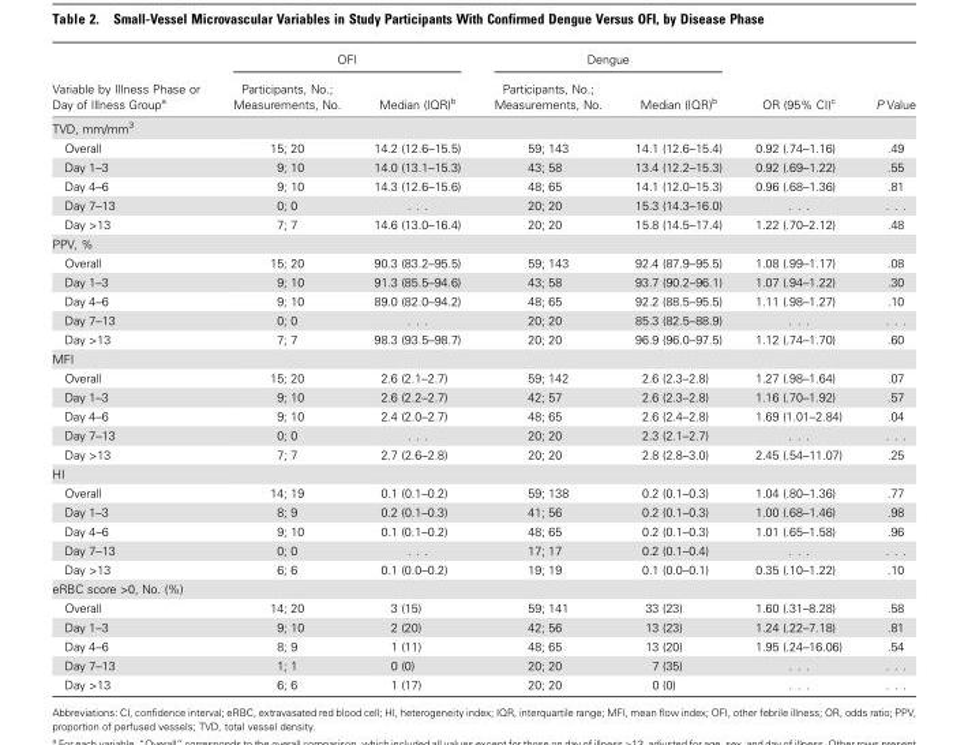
<table><thead><tr><td rowspan="2">Variable by Illness Phase or Day of Illness Group<sup>a</sup></td><td colspan="2">OFI</td><td colspan="2">Dengue</td><td rowspan="2">OR (95% CI)<sup>c</sup></td><td rowspan="2">P Value</td></tr><tr><td>Participants, No.; Measurements, No.</td><td>Median (IQR)<sup>b</sup></td><td>Participants, No.; Measurements, No.</td><td>Median (IQR)<sup>b</sup></td></tr></thead><tbody><tr><td colspan="7">TVD, mm/mm<sup>3</sup></td></tr><tr><td>Overall</td><td>15; 20</td><td>14.2 (12.6–15.5)</td><td>59; 143</td><td>14.1 (12.6–15.4)</td><td>0.92 (.74–1.16)</td><td>.49</td></tr><tr><td>Day 1–3</td><td>9; 10</td><td>14.0 (13.1–15.3)</td><td>43; 58</td><td>13.4 (12.2–15.3)</td><td>0.92 (.69–1.22)</td><td>.55</td></tr><tr><td>Day 4–6</td><td>9; 10</td><td>14.3 (12.6–15.6)</td><td>48; 65</td><td>14.1 (12.0–15.3)</td><td>0.96 (.68–1.36)</td><td>.81</td></tr><tr><td>Day 7–13</td><td>0; 0</td><td>. . .</td><td>20; 20</td><td>15.3 (14.3–16.0)</td><td>. . .</td><td>. . .</td></tr><tr><td>Day &gt;13</td><td>7; 7</td><td>14.6 (13.0–16.4)</td><td>20; 20</td><td>15.8 (14.5–17.4)</td><td>1.22 (.70–2.12)</td><td>.48</td></tr><tr><td colspan="7">PPV, %</td></tr><tr><td>Overall</td><td>15; 20</td><td>90.3 (83.2–95.5)</td><td>59; 143</td><td>92.4 (87.9–95.5)</td><td>1.08 (.99–1.17)</td><td>.08</td></tr><tr><td>Day 1–3</td><td>9; 10</td><td>91.3 (85.5–94.6)</td><td>43; 58</td><td>93.7 (90.2–96.1)</td><td>1.07 (.94–1.22)</td><td>.30</td></tr><tr><td>Day 4–6</td><td>9; 10</td><td>89.0 (82.0–94.2)</td><td>48; 65</td><td>92.2 (88.5–95.5)</td><td>1.11 (.98–1.27)</td><td>.10</td></tr><tr><td>Day 7–13</td><td>0; 0</td><td>. . .</td><td>20; 20</td><td>85.3 (82.5–88.9)</td><td>. . .</td><td>. . .</td></tr><tr><td>Day &gt;13</td><td>7; 7</td><td>98.3 (93.5–98.7)</td><td>20; 20</td><td>96.9 (96.0–97.5)</td><td>1.12 (.74–1.70)</td><td>.60</td></tr><tr><td colspan="7">MFI</td></tr><tr><td>Overall</td><td>15; 20</td><td>2.6 (2.1–2.7)</td><td>59; 142</td><td>2.6 (2.3–2.8)</td><td>1.27 (.98–1.64)</td><td>.07</td></tr><tr><td>Day 1–3</td><td>9; 10</td><td>2.6 (2.2–2.7)</td><td>42; 57</td><td>2.6 (2.3–2.8)</td><td>1.16 (.70–1.92)</td><td>.57</td></tr><tr><td>Day 4–6</td><td>9; 10</td><td>2.4 (2.0–2.7)</td><td>48; 65</td><td>2.6 (2.4–2.8)</td><td>1.69 (1.01–2.84)</td><td>.04</td></tr><tr><td>Day 7–13</td><td>0; 0</td><td>. . .</td><td>20; 20</td><td>2.3 (2.1–2.7)</td><td>. . .</td><td>. . .</td></tr><tr><td>Day &gt;13</td><td>7; 7</td><td>2.7 (2.6–2.8)</td><td>20; 20</td><td>2.8 (2.8–3.0)</td><td>2.45 (.54–11.07)</td><td>.25</td></tr><tr><td colspan="7">HI</td></tr><tr><td>Overall</td><td>14; 19</td><td>0.1 (0.1–0.2)</td><td>59; 138</td><td>0.2 (0.1–0.3)</td><td>1.04 (.80–1.36)</td><td>.77</td></tr><tr><td>Day 1–3</td><td>8; 9</td><td>0.2 (0.1–0.3)</td><td>41; 56</td><td>0.2 (0.1–0.3)</td><td>1.00 (.68–1.46)</td><td>.98</td></tr><tr><td>Day 4–6</td><td>9; 10</td><td>0.1 (0.1–0.2)</td><td>48; 65</td><td>0.2 (0.1–0.3)</td><td>1.01 (.65–1.58)</td><td>.96</td></tr><tr><td>Day 7–13</td><td>0; 0</td><td>. . .</td><td>17; 17</td><td>0.2 (0.1–0.4)</td><td>. . .</td><td>. . .</td></tr><tr><td>Day &gt;13</td><td>6; 6</td><td>0.1 (0.0–0.2)</td><td>19; 19</td><td>0.1 (0.0–0.1)</td><td>0.35 (.10–1.22)</td><td>.10</td></tr><tr><td colspan="7">eRBC score &gt;0, No. (%)</td></tr><tr><td>Overall</td><td>14; 20</td><td>3 (15)</td><td>59; 141</td><td>33 (23)</td><td>1.60 (.31–8.28)</td><td>.58</td></tr><tr><td>Day 1–3</td><td>9; 10</td><td>2 (20)</td><td>42; 56</td><td>13 (23)</td><td>1.24 (.22–7.18)</td><td>.81</td></tr><tr><td>Day 4–6</td><td>8; 9</td><td>1 (11)</td><td>48; 65</td><td>13 (20)</td><td>1.95 (.24–16.06)</td><td>.54</td></tr><tr><td>Day 7–13</td><td>1; 1</td><td>0 (0)</td><td>20; 20</td><td>7 (35)</td><td>. . .</td><td>. . .</td></tr><tr><td>Day &gt;13</td><td>6; 6</td><td>1 (17)</td><td>20; 20</td><td>0 (0)</td><td>. . .</td><td>. . .</td></tr></tbody></table>